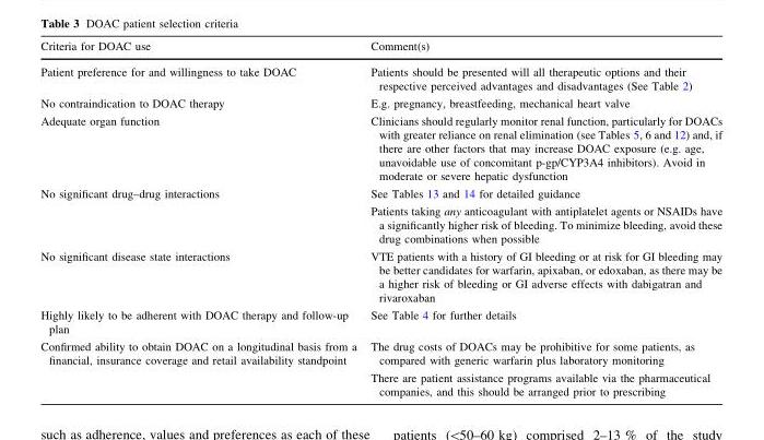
<table><thead><tr><td>Criteria for DOAC use</td><td>Comment(s)</td></tr></thead><tbody><tr><td>Patient preference for and willingness to take DOAC</td><td>Patients should be presented will all therapeutic options and their respective perceived advantages and disadvantages (See Table 2)</td></tr><tr><td>No contraindication to DOAC therapy</td><td>E.g. pregnancy, breastfeeding, mechanical heart valve</td></tr><tr><td>Adequate organ function</td><td>Clinicians should regularly monitor renal function, particularly for DOACs with greater reliance on renal elimination (see Tables 5, 6 and 12) and, if there are other factors that may increase DOAC exposure (e.g. age, unavoidable use of concomitant p-gp/CYP3A4 inhibitors). Avoid in moderate or severe hepatic dysfunction</td></tr><tr><td>No significant drug–drug interactions</td><td>See Tables 13 and 14 for detailed guidance Patients taking any anticoagulant with antiplatelet agents or NSAIDs have a significantly higher risk of bleeding. To minimize bleeding, avoid these drug combinations when possible</td></tr><tr><td>No significant disease state interactions</td><td>VTE patients with a history of GI bleeding or at risk for GI bleeding may be better candidates for warfarin, apixaban, or edoxaban, as there may be a higher risk of bleeding or GI adverse effects with dabigatran and rivaroxaban</td></tr><tr><td>Highly likely to be adherent with DOAC therapy and follow-up plan</td><td>See Table 4 for further details</td></tr><tr><td>Confirmed ability to obtain DOAC on a longitudinal basis from a financial, insurance coverage and retail availability standpoint</td><td>The drug costs of DOACs may be prohibitive for some patients, as compared with generic warfarin plus laboratory monitoring There are patient assistance programs available via the pharmaceutical companies, and this should be arranged prior to prescribing</td></tr></tbody></table>